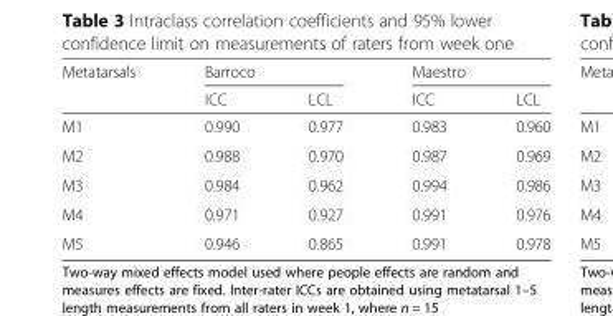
<table><thead><tr><td rowspan="2">Metatarsals</td><td colspan="2">Barroco</td><td colspan="2">Maestro</td></tr><tr><td>ICC</td><td>LCL</td><td>ICC</td><td>LCL</td></tr></thead><tbody><tr><td>M1</td><td>0.990</td><td>0.977</td><td>0.983</td><td>0.960</td></tr><tr><td>M2</td><td>0.988</td><td>0.970</td><td>0.987</td><td>0.969</td></tr><tr><td>M3</td><td>0.984</td><td>0.962</td><td>0.994</td><td>0.986</td></tr><tr><td>M4</td><td>0.971</td><td>0.927</td><td>0.991</td><td>0.976</td></tr><tr><td>M5</td><td>0.946</td><td>0.865</td><td>0.991</td><td>0.978</td></tr></tbody></table>